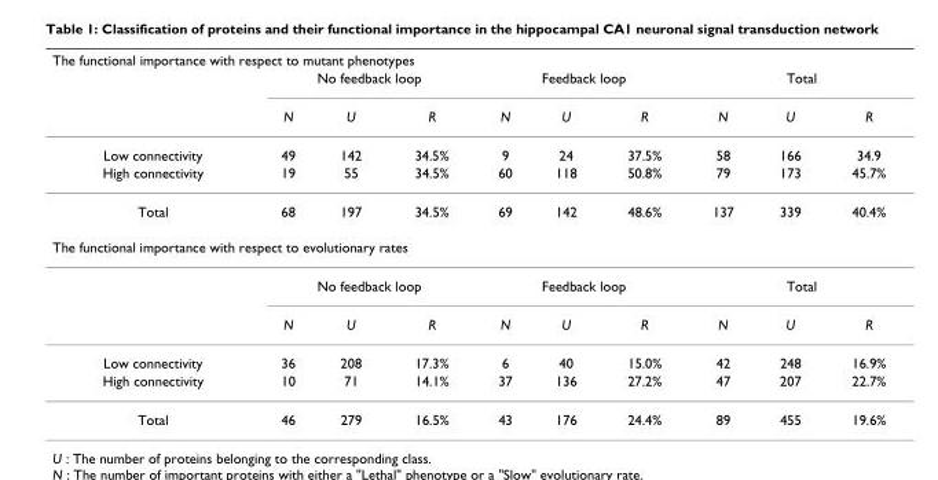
<table><thead><tr><td colspan="10">The functional importance with respect to mutant phenotypes</td></tr><tr><td rowspan="2"></td><td colspan="3">No feedback loop</td><td colspan="3">Feedback loop</td><td colspan="3">Total</td></tr><tr><td>N</td><td>U</td><td>R</td><td>N</td><td>U</td><td>R</td><td>N</td><td>U</td><td>R</td></tr></thead><tbody><tr><td>Low connectivity</td><td>49</td><td>142</td><td>34.5%</td><td>9</td><td>24</td><td>37.5%</td><td>58</td><td>166</td><td>34.9</td></tr><tr><td>High connectivity</td><td>19</td><td>55</td><td>34.5%</td><td>60</td><td>118</td><td>50.8%</td><td>79</td><td>173</td><td>45.7%</td></tr><tr><td>Total</td><td>68</td><td>197</td><td>34.5%</td><td>69</td><td>142</td><td>48.6%</td><td>137</td><td>339</td><td>40.4%</td></tr><tr><td colspan="10">The functional importance with respect to evolutionary rates</td></tr><tr><td></td><td colspan="3">No feedback loop</td><td colspan="3">Feedback loop</td><td colspan="3">Total</td></tr><tr><td></td><td>N</td><td>U</td><td>R</td><td>N</td><td>U</td><td>R</td><td>N</td><td>U</td><td>R</td></tr><tr><td>Low connectivity</td><td>36</td><td>208</td><td>17.3%</td><td>6</td><td>40</td><td>15.0%</td><td>42</td><td>248</td><td>16.9%</td></tr><tr><td>High connectivity</td><td>10</td><td>71</td><td>14.1%</td><td>37</td><td>136</td><td>27.2%</td><td>47</td><td>207</td><td>22.7%</td></tr><tr><td>Total</td><td>46</td><td>279</td><td>16.5%</td><td>43</td><td>176</td><td>24.4%</td><td>89</td><td>455</td><td>19.6%</td></tr></tbody></table>